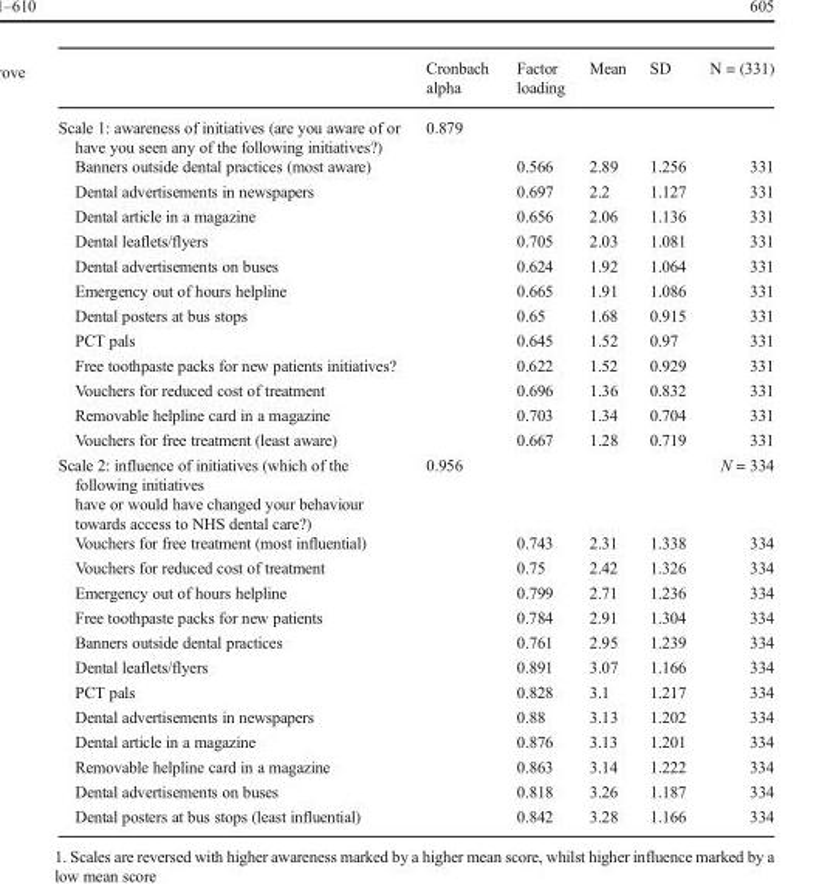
<table><thead><tr><td></td><td>Cronbach alpha</td><td>Factor loading</td><td>Mean</td><td>SD</td><td>N = (331)</td></tr></thead><tbody><tr><td>Scale 1: awareness of initiatives (are you aware of or have you seen any of the following initiatives?)</td><td>0.879</td><td></td><td></td><td></td><td></td></tr><tr><td colspan="2">Banners outside dental practices (most aware)</td><td>0.566</td><td>2.89</td><td>1.256</td><td>331</td></tr><tr><td colspan="2">Dental advertisements in newspapers</td><td>0.697</td><td>2.2</td><td>1.127</td><td>331</td></tr><tr><td colspan="2">Dental article in a magazine</td><td>0.656</td><td>2.06</td><td>1.136</td><td>331</td></tr><tr><td colspan="2">Dental leaflets/flyers</td><td>0.705</td><td>2.03</td><td>1.081</td><td>331</td></tr><tr><td colspan="2">Dental advertisements on buses</td><td>0.624</td><td>1.92</td><td>1.064</td><td>331</td></tr><tr><td colspan="2">Emergency out of hours helpline</td><td>0.665</td><td>1.91</td><td>1.086</td><td>331</td></tr><tr><td colspan="2">Dental posters at bus stops</td><td>0.65</td><td>1.68</td><td>0.915</td><td>331</td></tr><tr><td colspan="2">PCT pals</td><td>0.645</td><td>1.52</td><td>0.97</td><td>331</td></tr><tr><td colspan="2">Free toothpaste packs for new patients initiatives?</td><td>0.622</td><td>1.52</td><td>0.929</td><td>331</td></tr><tr><td colspan="2">Vouchers for reduced cost of treatment</td><td>0.696</td><td>1.36</td><td>0.832</td><td>331</td></tr><tr><td colspan="2">Removable helpline card in a magazine</td><td>0.703</td><td>1.34</td><td>0.704</td><td>331</td></tr><tr><td colspan="2">Vouchers for free treatment (least aware)</td><td>0.667</td><td>1.28</td><td>0.719</td><td>331</td></tr><tr><td>Scale 2: influence of initiatives (which of the following initiatives have or would have changed your behaviour towards access to NHS dental care?)</td><td>0.956</td><td></td><td></td><td></td><td>N = 334</td></tr><tr><td colspan="2">Vouchers for free treatment (most influential)</td><td>0.743</td><td>2.31</td><td>1.338</td><td>334</td></tr><tr><td colspan="2">Vouchers for reduced cost of treatment</td><td>0.75</td><td>2.42</td><td>1.326</td><td>334</td></tr><tr><td colspan="2">Emergency out of hours helpline</td><td>0.799</td><td>2.71</td><td>1.236</td><td>334</td></tr><tr><td colspan="2">Free toothpaste packs for new patients</td><td>0.784</td><td>2.91</td><td>1.304</td><td>334</td></tr><tr><td colspan="2">Banners outside dental practices</td><td>0.761</td><td>2.95</td><td>1.239</td><td>334</td></tr><tr><td colspan="2">Dental leaflets/flyers</td><td>0.891</td><td>3.07</td><td>1.166</td><td>334</td></tr><tr><td colspan="2">PCT pals</td><td>0.828</td><td>3.1</td><td>1.217</td><td>334</td></tr><tr><td colspan="2">Dental advertisements in newspapers</td><td>0.88</td><td>3.13</td><td>1.202</td><td>334</td></tr><tr><td colspan="2">Dental article in a magazine</td><td>0.876</td><td>3.13</td><td>1.201</td><td>334</td></tr><tr><td colspan="2">Removable helpline card in a magazine</td><td>0.863</td><td>3.14</td><td>1.222</td><td>334</td></tr><tr><td colspan="2">Dental advertisements on buses</td><td>0.818</td><td>3.26</td><td>1.187</td><td>334</td></tr><tr><td colspan="2">Dental posters at bus stops (least influential)</td><td>0.842</td><td>3.28</td><td>1.166</td><td>334</td></tr></tbody></table>